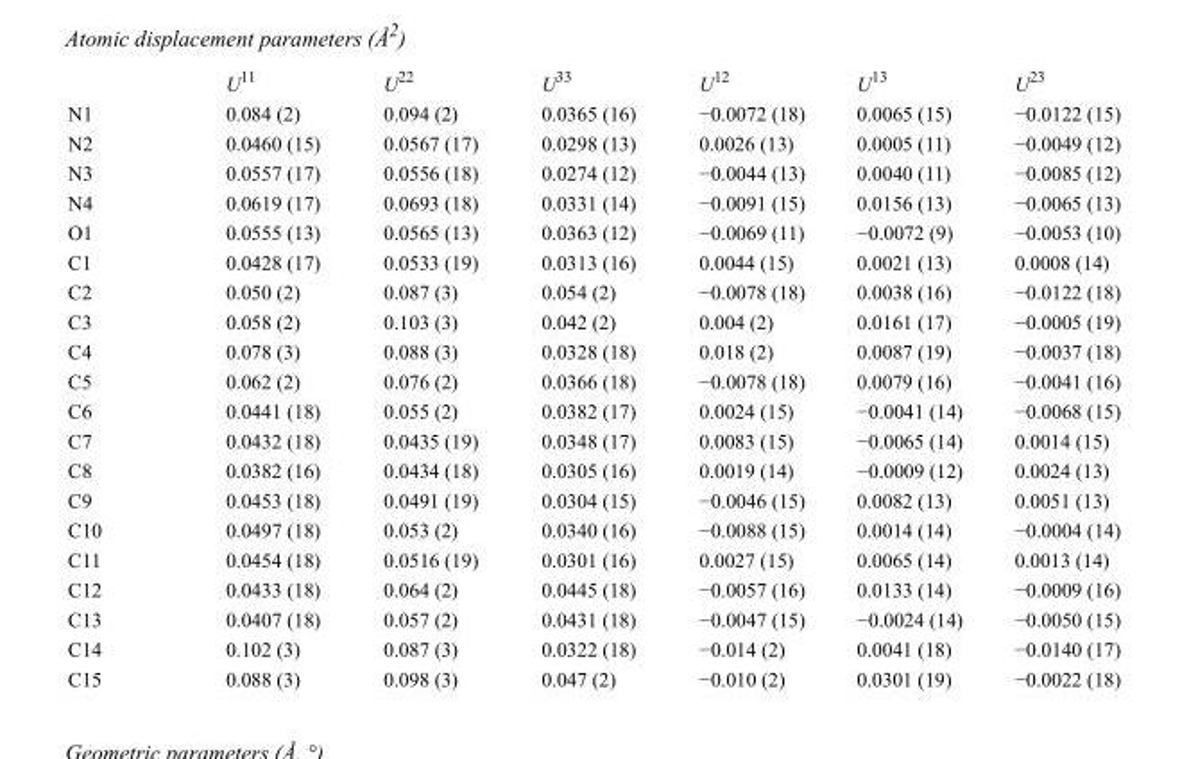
<table><thead><tr><td></td><td>U<sup>11</sup></td><td>U<sup>22</sup></td><td>U<sup>33</sup></td><td>U<sup>12</sup></td><td>U<sup>13</sup></td><td>U<sup>23</sup></td></tr></thead><tbody><tr><td>N1</td><td>0.084 (2)</td><td>0.094 (2)</td><td>0.0365 (16)</td><td>−0.0072 (18)</td><td>0.0065 (15)</td><td>−0.0122 (15)</td></tr><tr><td>N2</td><td>0.0460 (15)</td><td>0.0567 (17)</td><td>0.0298 (13)</td><td>0.0026 (13)</td><td>0.0005 (11)</td><td>−0.0049 (12)</td></tr><tr><td>N3</td><td>0.0557 (17)</td><td>0.0556 (18)</td><td>0.0274 (12)</td><td>−0.0044 (13)</td><td>0.0040 (11)</td><td>−0.0085 (12)</td></tr><tr><td>N4</td><td>0.0619 (17)</td><td>0.0693 (18)</td><td>0.0331 (14)</td><td>−0.0091 (15)</td><td>0.0156 (13)</td><td>−0.0065 (13)</td></tr><tr><td>O1</td><td>0.0555 (13)</td><td>0.0565 (13)</td><td>0.0363 (12)</td><td>−0.0069 (11)</td><td>−0.0072 (9)</td><td>−0.0053 (10)</td></tr><tr><td>C1</td><td>0.0428 (17)</td><td>0.0533 (19)</td><td>0.0313 (16)</td><td>0.0044 (15)</td><td>0.0021 (13)</td><td>0.0008 (14)</td></tr><tr><td>C2</td><td>0.050 (2)</td><td>0.087 (3)</td><td>0.054 (2)</td><td>−0.0078 (18)</td><td>0.0038 (16)</td><td>−0.0122 (18)</td></tr><tr><td>C3</td><td>0.058 (2)</td><td>0.103 (3)</td><td>0.042 (2)</td><td>0.004 (2)</td><td>0.0161 (17)</td><td>−0.0005 (19)</td></tr><tr><td>C4</td><td>0.078 (3)</td><td>0.088 (3)</td><td>0.0328 (18)</td><td>0.018 (2)</td><td>0.0087 (19)</td><td>−0.0037 (18)</td></tr><tr><td>C5</td><td>0.062 (2)</td><td>0.076 (2)</td><td>0.0366 (18)</td><td>−0.0078 (18)</td><td>0.0079 (16)</td><td>−0.0041 (16)</td></tr><tr><td>C6</td><td>0.0441 (18)</td><td>0.055 (2)</td><td>0.0382 (17)</td><td>0.0024 (15)</td><td>−0.0041 (14)</td><td>−0.0068 (15)</td></tr><tr><td>C7</td><td>0.0432 (18)</td><td>0.0435 (19)</td><td>0.0348 (17)</td><td>0.0083 (15)</td><td>−0.0065 (14)</td><td>0.0014 (15)</td></tr><tr><td>C8</td><td>0.0382 (16)</td><td>0.0434 (18)</td><td>0.0305 (16)</td><td>0.0019 (14)</td><td>−0.0009 (12)</td><td>0.0024 (13)</td></tr><tr><td>C9</td><td>0.0453 (18)</td><td>0.0491 (19)</td><td>0.0304 (15)</td><td>−0.0046 (15)</td><td>0.0082 (13)</td><td>0.0051 (13)</td></tr><tr><td>C10</td><td>0.0497 (18)</td><td>0.053 (2)</td><td>0.0340 (16)</td><td>−0.0088 (15)</td><td>0.0014 (14)</td><td>−0.0004 (14)</td></tr><tr><td>C11</td><td>0.0454 (18)</td><td>0.0516 (19)</td><td>0.0301 (16)</td><td>0.0027 (15)</td><td>0.0065 (14)</td><td>0.0013 (14)</td></tr><tr><td>C12</td><td>0.0433 (18)</td><td>0.064 (2)</td><td>0.0445 (18)</td><td>−0.0057 (16)</td><td>0.0133 (14)</td><td>−0.0009 (16)</td></tr><tr><td>C13</td><td>0.0407 (18)</td><td>0.057 (2)</td><td>0.0431 (18)</td><td>−0.0047 (15)</td><td>−0.0024 (14)</td><td>−0.0050 (15)</td></tr><tr><td>C14</td><td>0.102 (3)</td><td>0.087 (3)</td><td>0.0322 (18)</td><td>−0.014 (2)</td><td>0.0041 (18)</td><td>−0.0140 (17)</td></tr><tr><td>C15</td><td>0.088 (3)</td><td>0.098 (3)</td><td>0.047 (2)</td><td>−0.010 (2)</td><td>0.0301 (19)</td><td>−0.0022 (18)</td></tr></tbody></table>